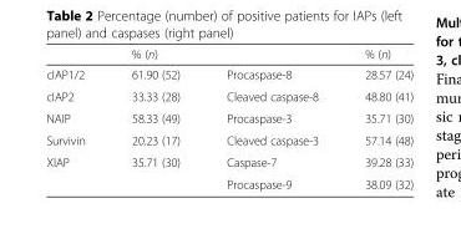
<table><thead><tr><td></td><td>% (n)</td><td></td><td>% (n)</td></tr></thead><tbody><tr><td>cIAP1/2</td><td>61.90 (52)</td><td>Procaspase-8</td><td>28.57 (24)</td></tr><tr><td>cIAP2</td><td>33.33 (28)</td><td>Cleaved caspase-8</td><td>48.80 (41)</td></tr><tr><td>NAIP</td><td>58.33 (49)</td><td>Procaspase-3</td><td>35.71 (30)</td></tr><tr><td>Survivin</td><td>20.23 (17)</td><td>Cleaved caspase-3</td><td>57.14 (48)</td></tr><tr><td rowspan="2">XIAP</td><td>35.71 (30)</td><td>Caspase-7</td><td>39.28 (33)</td></tr><tr><td></td><td>Procaspase-9</td><td>38.09 (32)</td></tr></tbody></table>